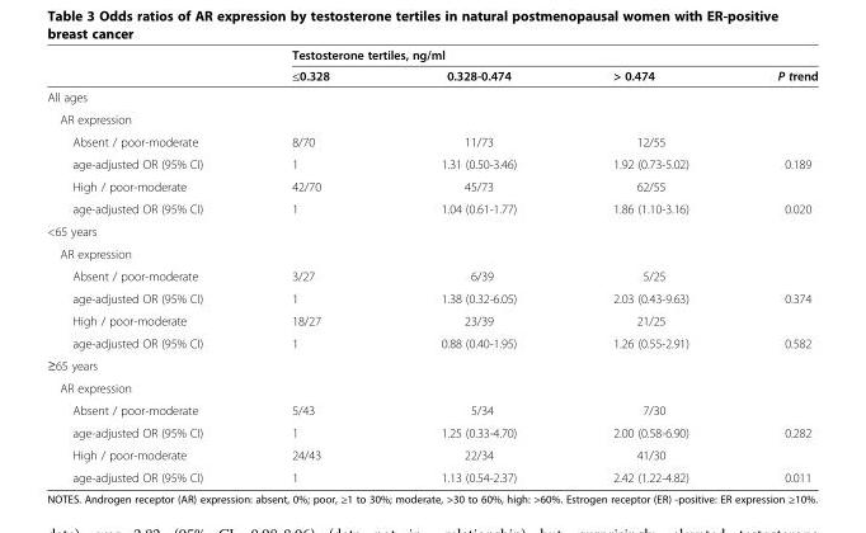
<table><thead><tr><td rowspan="2"></td><td colspan="2">Testosterone tertiles, ng/ml</td><td rowspan="2">&gt; 0.474</td><td rowspan="2">P trend</td></tr><tr><td>≤0.328</td><td>0.328-0.474</td></tr></thead><tbody><tr><td colspan="5">All ages</td></tr><tr><td colspan="5">AR expression</td></tr><tr><td>Absent / poor-moderate</td><td>8/70</td><td>11/73</td><td>12/55</td><td></td></tr><tr><td>age-adjusted OR (95% CI)</td><td>1</td><td>1.31 (0.50-3.46)</td><td>1.92 (0.73-5.02)</td><td>0.189</td></tr><tr><td>High / poor-moderate</td><td>42/70</td><td>45/73</td><td>62/55</td><td></td></tr><tr><td>age-adjusted OR (95% CI)</td><td>1</td><td>1.04 (0.61-1.77)</td><td>1.86 (1.10-3.16)</td><td>0.020</td></tr><tr><td colspan="5">&lt;65 years</td></tr><tr><td colspan="5">AR expression</td></tr><tr><td>Absent / poor-moderate</td><td>3/27</td><td>6/39</td><td>5/25</td><td></td></tr><tr><td>age-adjusted OR (95% CI)</td><td>1</td><td>1.38 (0.32-6.05)</td><td>2.03 (0.43-9.63)</td><td>0.374</td></tr><tr><td>High / poor-moderate</td><td>18/27</td><td>23/39</td><td>21/25</td><td></td></tr><tr><td>age-adjusted OR (95% CI)</td><td>1</td><td>0.88 (0.40-1.95)</td><td>1.26 (0.55-2.91)</td><td>0.582</td></tr><tr><td colspan="5">≥65 years</td></tr><tr><td colspan="5">AR expression</td></tr><tr><td>Absent / poor-moderate</td><td>5/43</td><td>5/34</td><td>7/30</td><td></td></tr><tr><td>age-adjusted OR (95% CI)</td><td>1</td><td>1.25 (0.33-4.70)</td><td>2.00 (0.58-6.90)</td><td>0.282</td></tr><tr><td>High / poor-moderate</td><td>24/43</td><td>22/34</td><td>41/30</td><td></td></tr><tr><td>age-adjusted OR (95% CI)</td><td>1</td><td>1.13 (0.54-2.37)</td><td>2.42 (1.22-4.82)</td><td>0.011</td></tr></tbody></table>